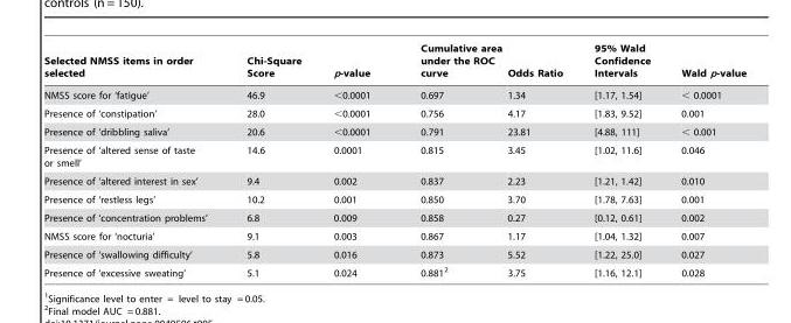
<table><thead><tr><td>Selected NMSS items in order selected</td><td>Chi-Square Score</td><td>p-value</td><td>Cumulative area under the ROC curve</td><td>Odds Ratio</td><td>95% Wald Confidence Intervals</td><td>Wald p-value</td></tr></thead><tbody><tr><td>NMSS score for ‘fatigue’</td><td>46.9</td><td>&lt;0.0001</td><td>0.697</td><td>1.34</td><td>[1.17, 1.54]</td><td>&lt; 0.0001</td></tr><tr><td>Presence of ‘constipation’</td><td>28.0</td><td>&lt;0.0001</td><td>0.756</td><td>4.17</td><td>[1.83, 9.52]</td><td>0.001</td></tr><tr><td>Presence of ‘dribbling saliva’</td><td>20.6</td><td>&lt;0.0001</td><td>0.791</td><td>23.81</td><td>[4.88, 111]</td><td>&lt; 0.001</td></tr><tr><td>Presence of ‘altered sense of taste or smell’</td><td>14.6</td><td>0.0001</td><td>0.815</td><td>3.45</td><td>[1.02, 11.6]</td><td>0.046</td></tr><tr><td>Presence of ‘altered interest in sex’</td><td>9.4</td><td>0.002</td><td>0.837</td><td>2.23</td><td>[1.21, 1.42]</td><td>0.010</td></tr><tr><td>Presence of ‘restless legs’</td><td>10.2</td><td>0.001</td><td>0.850</td><td>3.70</td><td>[1.78, 7.63]</td><td>0.001</td></tr><tr><td>Presence of ‘concentration problems’</td><td>6.8</td><td>0.009</td><td>0.858</td><td>0.27</td><td>[0.12, 0.61]</td><td>0.002</td></tr><tr><td>NMSS score for ‘nocturia’</td><td>9.1</td><td>0.003</td><td>0.867</td><td>1.17</td><td>[1.04, 1.32]</td><td>0.007</td></tr><tr><td>Presence of ‘swallowing difficulty’</td><td>5.8</td><td>0.016</td><td>0.873</td><td>5.52</td><td>[1.22, 25.0]</td><td>0.027</td></tr><tr><td>Presence of ‘excessive sweating’</td><td>5.1</td><td>0.024</td><td>0.881<sup>2</sup></td><td>3.75</td><td>[1.16, 12.1]</td><td>0.028</td></tr></tbody></table>